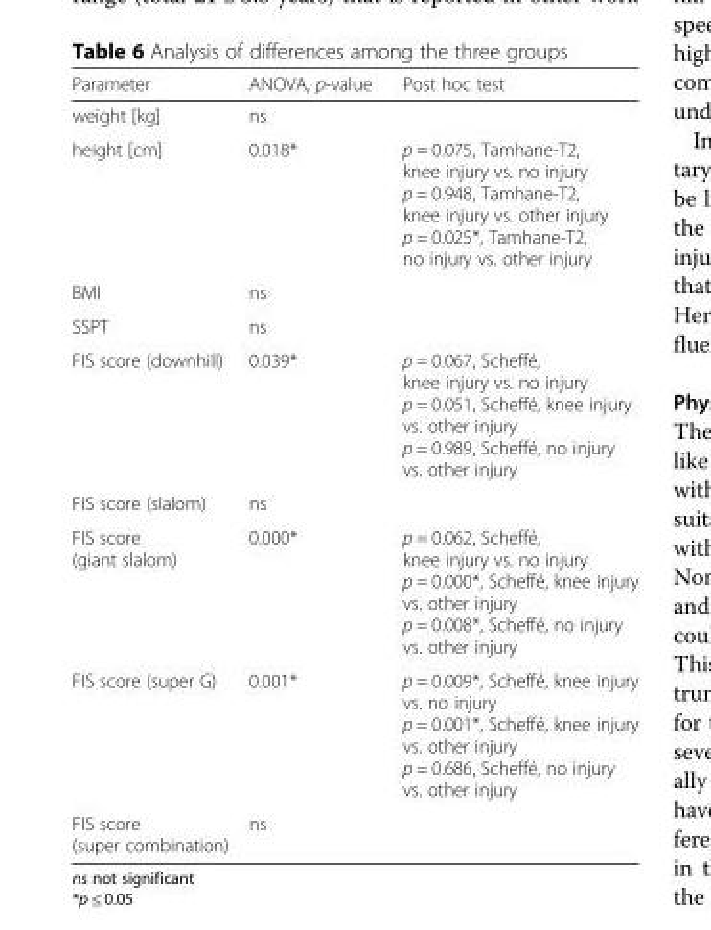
<table><thead><tr><td>Parameter</td><td>ANOVA, p-value</td><td>Post hoc test</td></tr></thead><tbody><tr><td>weight [kg]</td><td>ns</td><td></td></tr><tr><td>height [cm]</td><td>0.018*</td><td>p = 0.075, Tamhane-T2, knee injury vs. no injury p = 0.948, Tamhane-T2, knee injury vs. other injury p = 0.025*, Tamhane-T2, no injury vs. other injury</td></tr><tr><td>BMI</td><td>ns</td><td></td></tr><tr><td>SSPT</td><td>ns</td><td></td></tr><tr><td>FIS score (downhill)</td><td>0.039*</td><td>p = 0.067, Scheffé, knee injury vs. no injury p = 0.051, Scheffé, knee injury vs. other injury p = 0.989, Scheffé, no injury vs. other injury</td></tr><tr><td>FIS score (slalom)</td><td>ns</td><td></td></tr><tr><td>FIS score (giant slalom)</td><td>0.000*</td><td>p = 0.062, Scheffé, knee injury vs. no injury p = 0.000*, Scheffé, knee injury vs. other injury p = 0.008*, Scheffé, no injury vs. other injury</td></tr><tr><td>FIS score (super G)</td><td>0.001*</td><td>p = 0.009*, Scheffé, knee injury vs. no injury p = 0.001*, Scheffé, knee injury vs. other injury p = 0.686, Scheffé, no injury vs. other injury</td></tr><tr><td>FIS score (super combination)</td><td>ns</td><td></td></tr></tbody></table>